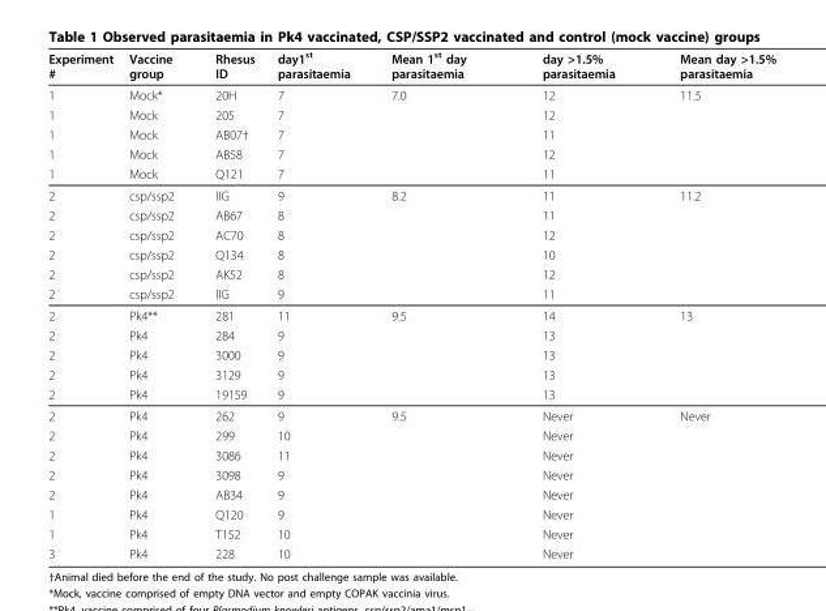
<table><thead><tr><td>Experiment #</td><td>Vaccine group</td><td>Rhesus ID</td><td>day1<sup>st</sup> parasitaemia</td><td>Mean 1<sup>st</sup> day parasitaemia</td><td>day &gt;1.5% parasitaemia</td><td>Mean day &gt;1.5% parasitaemia</td></tr></thead><tbody><tr><td>1</td><td>Mock*</td><td>20H</td><td>7</td><td>7.0</td><td>12</td><td>11.5</td></tr><tr><td>1</td><td>Mock</td><td>205</td><td>7</td><td></td><td>12</td><td></td></tr><tr><td>1</td><td>Mock</td><td>AB07†</td><td>7</td><td></td><td>11</td><td></td></tr><tr><td>1</td><td>Mock</td><td>AB58</td><td>7</td><td></td><td>12</td><td></td></tr><tr><td>1</td><td>Mock</td><td>Q121</td><td>7</td><td></td><td>11</td><td></td></tr><tr><td>2</td><td>csp/ssp2</td><td>IIG</td><td>9</td><td>8.2</td><td>11</td><td>11.2</td></tr><tr><td>2</td><td>csp/ssp2</td><td>AB67</td><td>8</td><td></td><td>11</td><td></td></tr><tr><td>2</td><td>csp/ssp2</td><td>AC70</td><td>8</td><td></td><td>12</td><td></td></tr><tr><td>2</td><td>csp/ssp2</td><td>Q134</td><td>8</td><td></td><td>10</td><td></td></tr><tr><td>2</td><td>csp/ssp2</td><td>AK52</td><td>8</td><td></td><td>12</td><td></td></tr><tr><td>2</td><td>csp/ssp2</td><td>IIG</td><td>9</td><td></td><td>11</td><td></td></tr><tr><td>2</td><td>Pk4**</td><td>281</td><td>11</td><td>9.5</td><td>14</td><td>13</td></tr><tr><td>2</td><td>Pk4</td><td>284</td><td>9</td><td></td><td>13</td><td></td></tr><tr><td>2</td><td>Pk4</td><td>3000</td><td>9</td><td></td><td>13</td><td></td></tr><tr><td>2</td><td>Pk4</td><td>3129</td><td>9</td><td></td><td>13</td><td></td></tr><tr><td>2</td><td>Pk4</td><td>19159</td><td>9</td><td></td><td>13</td><td></td></tr><tr><td>2</td><td>Pk4</td><td>262</td><td>9</td><td>9.5</td><td>Never</td><td>Never</td></tr><tr><td>2</td><td>Pk4</td><td>299</td><td>10</td><td></td><td>Never</td><td></td></tr><tr><td>2</td><td>Pk4</td><td>3086</td><td>11</td><td></td><td>Never</td><td></td></tr><tr><td>2</td><td>Pk4</td><td>3098</td><td>9</td><td></td><td>Never</td><td></td></tr><tr><td>2</td><td>Pk4</td><td>AB34</td><td>9</td><td></td><td>Never</td><td></td></tr><tr><td>1</td><td>Pk4</td><td>Q120</td><td>9</td><td></td><td>Never</td><td></td></tr><tr><td>1</td><td>Pk4</td><td>T152</td><td>10</td><td></td><td>Never</td><td></td></tr><tr><td>3</td><td>Pk4</td><td>228</td><td>10</td><td></td><td>Never</td><td></td></tr></tbody></table>